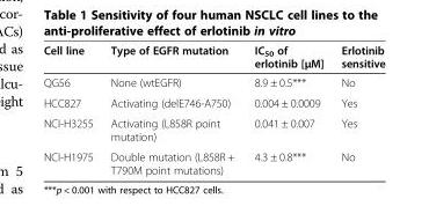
<table><thead><tr><td>Cell line</td><td>Type of EGFR mutation</td><td>IC<sub>50</sub> of erlotinib [μM]</td><td>Erlotinib sensitive</td></tr></thead><tbody><tr><td>QG56</td><td>None (wtEGFR)</td><td>8.9 ± 0.5***</td><td>No</td></tr><tr><td>HCC827</td><td>Activating (delE746-A750)</td><td>0.004 ± 0.0009</td><td>Yes</td></tr><tr><td>NCI-H3255</td><td>Activating (L858R point mutation)</td><td>0.041 ± 0.007</td><td>Yes</td></tr><tr><td>NCI-H1975</td><td>Double mutation (L858R + T790M point mutations)</td><td>4.3 ± 0.8***</td><td>No</td></tr></tbody></table>